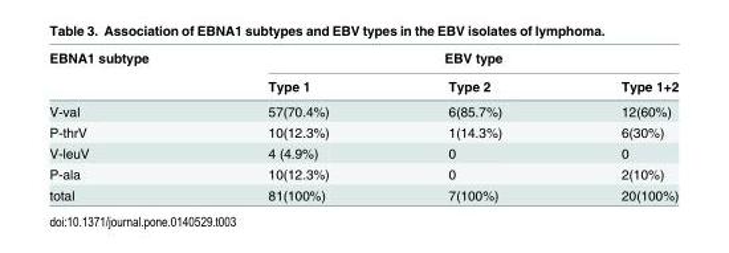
<table><thead><tr><td rowspan="2">EBNA1 subtype</td><td colspan="3">EBV type</td></tr><tr><td>Type 1</td><td>Type 2</td><td>Type 1+2</td></tr></thead><tbody><tr><td>V-val</td><td>57(70.4%)</td><td>6(85.7%)</td><td>12(60%)</td></tr><tr><td>P-thrV</td><td>10(12.3%)</td><td>1(14.3%)</td><td>6(30%)</td></tr><tr><td>V-leuV</td><td>4 (4.9%)</td><td>0</td><td>0</td></tr><tr><td>P-ala</td><td>10(12.3%)</td><td>0</td><td>2(10%)</td></tr><tr><td>total</td><td>81(100%)</td><td>7(100%)</td><td>20(100%)</td></tr></tbody></table>